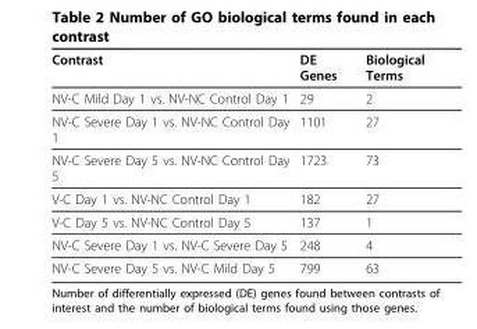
<table><thead><tr><td>Contrast</td><td>DE Genes</td><td>Biological Terms</td></tr></thead><tbody><tr><td>NV-C Mild Day 1 vs. NV-NC Control Day 1</td><td>29</td><td>2</td></tr><tr><td>NV-C Severe Day 1 vs. NV-NC Control Day 1</td><td>1101</td><td>27</td></tr><tr><td>NV-C Severe Day 5 vs. NV-NC Control Day 5</td><td>1723</td><td>73</td></tr><tr><td>V-C Day 1 vs. NV-NC Control Day 1</td><td>182</td><td>27</td></tr><tr><td>V-C Day 5 vs. NV-NC Control Day 5</td><td>137</td><td>1</td></tr><tr><td>NV-C Severe Day 1 vs. NV-C Severe Day 5</td><td>248</td><td>4</td></tr><tr><td>NV-C Severe Day 5 vs. NV-C Mild Day 5</td><td>799</td><td>63</td></tr></tbody></table>